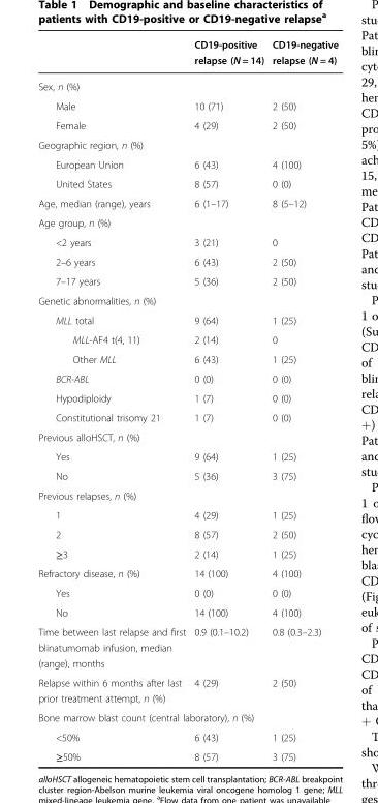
<table><thead><tr><td></td><td>CD19-positive relapse (N = 14)</td><td>CD19-negative relapse (N = 4)</td></tr></thead><tbody><tr><td colspan="3">Sex, n (%)</td></tr><tr><td>Male</td><td>10 (71)</td><td>2 (50)</td></tr><tr><td>Female</td><td>4 (29)</td><td>2 (50)</td></tr><tr><td colspan="3">Geographic region, n (%)</td></tr><tr><td>European Union</td><td>6 (43)</td><td>4 (100)</td></tr><tr><td>United States</td><td>8 (57)</td><td>0 (0)</td></tr><tr><td>Age, median (range), years</td><td>6 (1–17)</td><td>8 (5–12)</td></tr><tr><td colspan="3">Age group, n (%)</td></tr><tr><td>&lt;2 years</td><td>3 (21)</td><td>0</td></tr><tr><td>2–6 years</td><td>6 (43)</td><td>2 (50)</td></tr><tr><td>7–17 years</td><td>5 (36)</td><td>2 (50)</td></tr><tr><td colspan="3">Genetic abnormalities, n (%)</td></tr><tr><td>MLL total</td><td>9 (64)</td><td>1 (25)</td></tr><tr><td>MLL-AF4 t(4, 11)</td><td>2 (14)</td><td>0</td></tr><tr><td>Other MLL</td><td>6 (43)</td><td>1 (25)</td></tr><tr><td>BCR-ABL</td><td>0 (0)</td><td>0 (0)</td></tr><tr><td>Hypodiploidy</td><td>1 (7)</td><td>0 (0)</td></tr><tr><td>Constitutional trisomy 21</td><td>1 (7)</td><td>0 (0)</td></tr><tr><td colspan="3">Previous alloHSCT, n (%)</td></tr><tr><td>Yes</td><td>9 (64)</td><td>1 (25)</td></tr><tr><td>No</td><td>5 (36)</td><td>3 (75)</td></tr><tr><td colspan="3">Previous relapses, n (%)</td></tr><tr><td>1</td><td>4 (29)</td><td>1 (25)</td></tr><tr><td>2</td><td>8 (57)</td><td>2 (50)</td></tr><tr><td>≥3</td><td>2 (14)</td><td>1 (25)</td></tr><tr><td>Refractory disease, n (%)</td><td>14 (100)</td><td>4 (100)</td></tr><tr><td>Yes</td><td>0 (0)</td><td>0 (0)</td></tr><tr><td>No</td><td>14 (100)</td><td>4 (100)</td></tr><tr><td>Time between last relapse and first blinatumomab infusion, median (range), months</td><td>0.9 (0.1–10.2)</td><td>0.8 (0.3–2.3)</td></tr><tr><td>Relapse within 6 months after last prior treatment attempt, n (%)</td><td>4 (29)</td><td>2 (50)</td></tr><tr><td colspan="3">Bone marrow blast count (central laboratory), n (%)</td></tr><tr><td>&lt;50%</td><td>6 (43)</td><td>1 (25)</td></tr><tr><td>≥50%</td><td>8 (57)</td><td>3 (75)</td></tr></tbody></table>